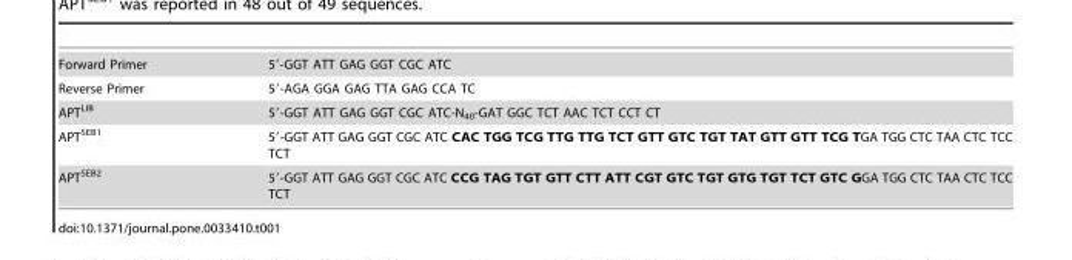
<table><tbody><tr><td>Forward Primer</td><td>5′-GGT ATT GAG GGT CGC ATC</td></tr><tr><td>Reverse Primer</td><td>5′-AGA GGA GAG TTA GAG CCA TC</td></tr><tr><td>APT<sup>LIB</sup></td><td>5′-GGT ATT GAG GGT CGC ATC-N<sub>40</sub>-GAT GGC TCT AAC TCT CCT CT</td></tr><tr><td>APT<sup>SEB1</sup></td><td>5′-GGT ATT GAG GGT CGC ATC CAC TGG TCG TTG TTG TCT GTT GTC TGT TAT GTT GTT TCG TGA TGG CTC TAA CTC TCC TCT</td></tr><tr><td>APT<sup>SEB2</sup></td><td>5′-GGT ATT GAG GGT CGC ATC CCG TAG TGT GTT CTT ATT CGT GTC TGT GTG TGT TCT GTC GGA TGG CTC TAA CTC TCC TCT</td></tr></tbody></table>